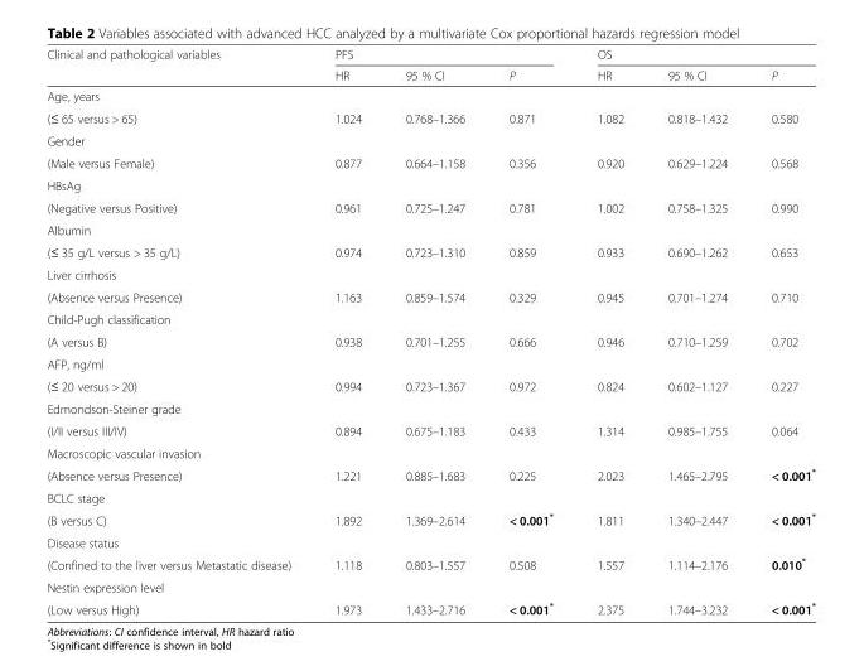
<table><thead><tr><td rowspan="2">Clinical and pathological variables</td><td colspan="3">PFS</td><td colspan="3">OS</td></tr><tr><td>HR</td><td>95 % CI</td><td>P</td><td>HR</td><td>95 % CI</td><td>P</td></tr></thead><tbody><tr><td colspan="7">Age, years</td></tr><tr><td>(≤ 65 versus &gt; 65)</td><td>1.024</td><td>0.768–1.366</td><td>0.871</td><td>1.082</td><td>0.818–1.432</td><td>0.580</td></tr><tr><td colspan="7">Gender</td></tr><tr><td>(Male versus Female)</td><td>0.877</td><td>0.664–1.158</td><td>0.356</td><td>0.920</td><td>0.629–1.224</td><td>0.568</td></tr><tr><td colspan="7">HBsAg</td></tr><tr><td>(Negative versus Positive)</td><td>0.961</td><td>0.725–1.247</td><td>0.781</td><td>1.002</td><td>0.758–1.325</td><td>0.990</td></tr><tr><td colspan="7">Albumin</td></tr><tr><td>(≤ 35 g/L versus &gt; 35 g/L)</td><td>0.974</td><td>0.723–1.310</td><td>0.859</td><td>0.933</td><td>0.690–1.262</td><td>0.653</td></tr><tr><td colspan="7">Liver cirrhosis</td></tr><tr><td>(Absence versus Presence)</td><td>1.163</td><td>0.859–1.574</td><td>0.329</td><td>0.945</td><td>0.701–1.274</td><td>0.710</td></tr><tr><td colspan="7">Child-Pugh classification</td></tr><tr><td>(A versus B)</td><td>0.938</td><td>0.701–1.255</td><td>0.666</td><td>0.946</td><td>0.710–1.259</td><td>0.702</td></tr><tr><td colspan="7">AFP, ng/ml</td></tr><tr><td>(≤ 20 versus &gt; 20)</td><td>0.994</td><td>0.723–1.367</td><td>0.972</td><td>0.824</td><td>0.602–1.127</td><td>0.227</td></tr><tr><td colspan="7">Edmondson-Steiner grade</td></tr><tr><td>(I/II versus III/IV)</td><td>0.894</td><td>0.675–1.183</td><td>0.433</td><td>1.314</td><td>0.985–1.755</td><td>0.064</td></tr><tr><td colspan="7">Macroscopic vascular invasion</td></tr><tr><td>(Absence versus Presence)</td><td>1.221</td><td>0.885–1.683</td><td>0.225</td><td>2.023</td><td>1.465–2.795</td><td>&lt; 0.001*</td></tr><tr><td colspan="7">BCLC stage</td></tr><tr><td>(B versus C)</td><td>1.892</td><td>1.369–2.614</td><td>&lt; 0.001*</td><td>1.811</td><td>1.340–2.447</td><td>&lt; 0.001*</td></tr><tr><td colspan="7">Disease status</td></tr><tr><td>(Confined to the liver versus Metastatic disease)</td><td>1.118</td><td>0.803–1.557</td><td>0.508</td><td>1.557</td><td>1.114–2.176</td><td>0.010*</td></tr><tr><td colspan="7">Nestin expression level</td></tr><tr><td>(Low versus High)</td><td>1.973</td><td>1.433–2.716</td><td>&lt; 0.001*</td><td>2.375</td><td>1.744–3.232</td><td>&lt; 0.001*</td></tr></tbody></table>